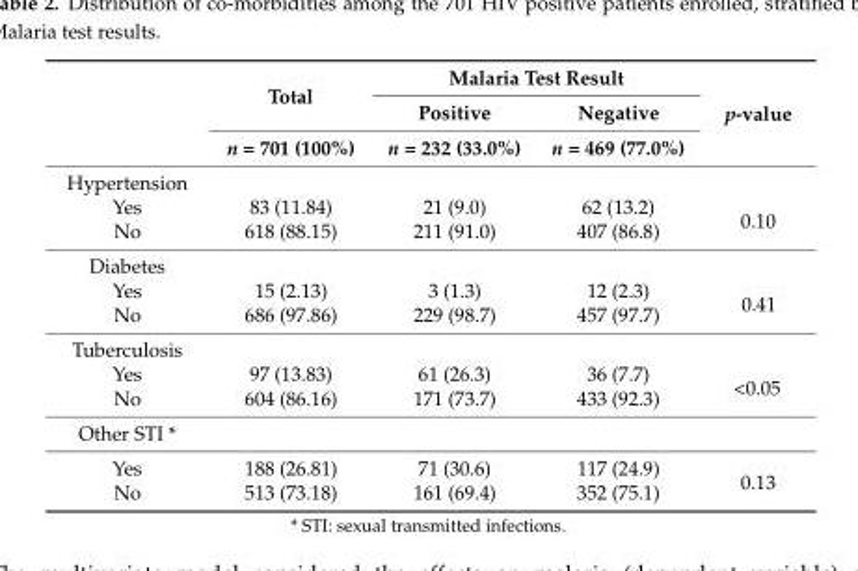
<table><thead><tr><td rowspan="3"></td><td rowspan="3">Total n = 701 (100%)</td><td colspan="2">Malaria Test Result</td><td rowspan="3">p-value</td></tr><tr><td rowspan="2">Positive n = 232 (33.0%)</td><td rowspan="2">Negative n = 469 (77.0%)</td></tr><tr></tr></thead><tbody><tr><td colspan="5">Hypertension</td></tr><tr><td>Yes</td><td>83 (11.84)</td><td>21 (9.0)</td><td>62 (13.2)</td><td rowspan="2">0.10</td></tr><tr><td>No</td><td>618 (88.15)</td><td>211 (91.0)</td><td>407 (86.8)</td></tr><tr><td colspan="5">Diabetes</td></tr><tr><td>Yes</td><td>15 (2.13)</td><td>3 (1.3)</td><td>12 (2.3)</td><td rowspan="2">0.41</td></tr><tr><td>No</td><td>686 (97.86)</td><td>229 (98.7)</td><td>457 (97.7)</td></tr><tr><td colspan="5">Tuberculosis</td></tr><tr><td>Yes</td><td>97 (13.83)</td><td>61 (26.3)</td><td>36 (7.7)</td><td rowspan="2">&lt;0.05</td></tr><tr><td>No</td><td>604 (86.16)</td><td>171 (73.7)</td><td>433 (92.3)</td></tr><tr><td colspan="5">Other STI *</td></tr><tr><td>Yes</td><td>188 (26.81)</td><td>71 (30.6)</td><td>117 (24.9)</td><td rowspan="2">0.13</td></tr><tr><td>No</td><td>513 (73.18)</td><td>161 (69.4)</td><td>352 (75.1)</td></tr></tbody></table>